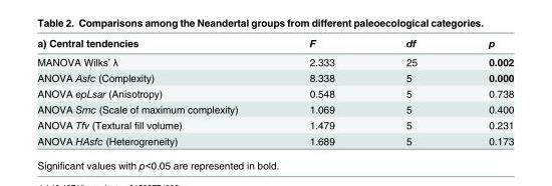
<table><thead><tr><td>a) Central tendencies</td><td>F</td><td>df</td><td>p</td></tr></thead><tbody><tr><td>MANOVA Wilks’ λ</td><td>2.333</td><td>25</td><td>0.002</td></tr><tr><td>ANOVA Asfc (Complexity)</td><td>8.338</td><td>5</td><td>0.000</td></tr><tr><td>ANOVA epLsar (Anisotropy)</td><td>0.548</td><td>5</td><td>0.738</td></tr><tr><td>ANOVA Smc (Scale of maximum complexity)</td><td>1.069</td><td>5</td><td>0.400</td></tr><tr><td>ANOVA Tfv (Textural fill volume)</td><td>1.479</td><td>5</td><td>0.231</td></tr><tr><td>ANOVA HAsfc (Heterogreneity)</td><td>1.689</td><td>5</td><td>0.173</td></tr></tbody></table>